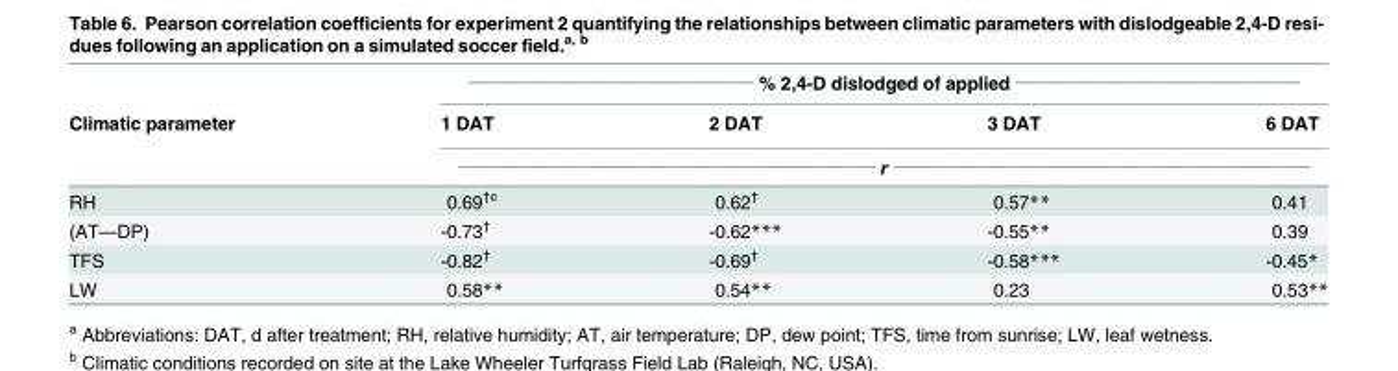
<table><thead><tr><td rowspan="3">Climatic parameter</td><td colspan="4">_____________________________________ % 2,4-D dislodged of applied _____________________________________</td></tr><tr><td>1 DAT</td><td>2 DAT</td><td>3 DAT</td><td>6 DAT</td></tr><tr><td colspan="4">______________________________________________________ r ______________________________________________________</td></tr></thead><tbody><tr><td>RH</td><td>0.69<sup>†c</sup></td><td>0.62<sup>†</sup></td><td>0.57**</td><td>0.41</td></tr><tr><td>(AT—DP)</td><td>-0.73<sup>†</sup></td><td>-0.62***</td><td>-0.55**</td><td>0.39</td></tr><tr><td>TFS</td><td>-0.82<sup>†</sup></td><td>-0.69<sup>†</sup></td><td>-0.58***</td><td>-0.45*</td></tr><tr><td>LW</td><td>0.58**</td><td>0.54**</td><td>0.23</td><td>0.53**</td></tr></tbody></table>